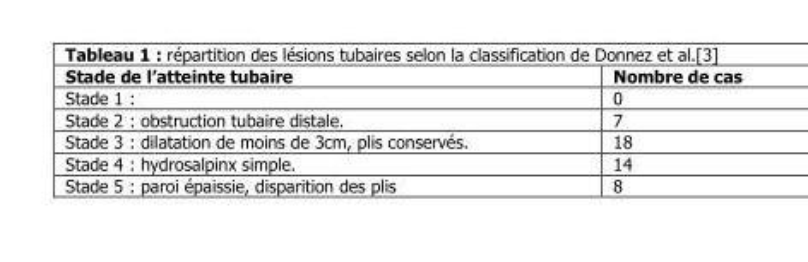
<table><thead><tr><td>Stade de l’atteinte tubaire</td><td>Nombre de cas</td></tr></thead><tbody><tr><td>Stade 1 :</td><td>0</td></tr><tr><td>Stade 2 : obstruction tubaire distale.</td><td>7</td></tr><tr><td>Stade 3 : dilatation de moins de 3cm, plis conservés.</td><td>18</td></tr><tr><td>Stade 4 : hydrosalpinx simple.</td><td>14</td></tr><tr><td>Stade 5 : paroi épaissie, disparition des plis</td><td>8</td></tr></tbody></table>